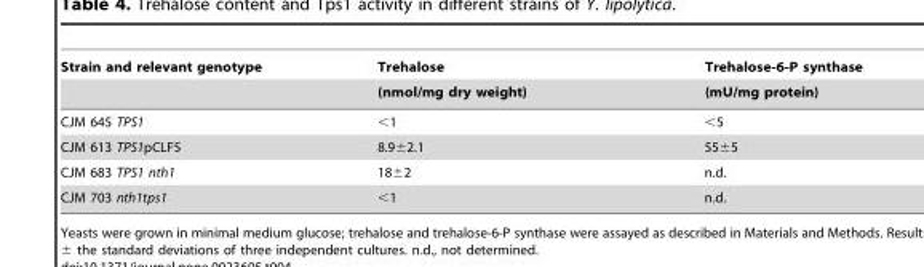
<table><thead><tr><td rowspan="2">Strain and relevant genotype</td><td rowspan="2">Trehalose (nmol/mg dry weight)</td><td rowspan="2">Trehalose-6-P synthase (mU/mg protein)</td></tr><tr></tr></thead><tbody><tr><td>CJM 645 TPS1</td><td>&lt;1</td><td>&lt;5</td></tr><tr><td>CJM 613 TPS1pCLF5</td><td>8.9±2.1</td><td>55±5</td></tr><tr><td>CJM 683 TPS1 nth1</td><td>18±2</td><td>n.d.</td></tr><tr><td>CJM 703 nth1tps1</td><td>&lt;1</td><td>n.d.</td></tr></tbody></table>